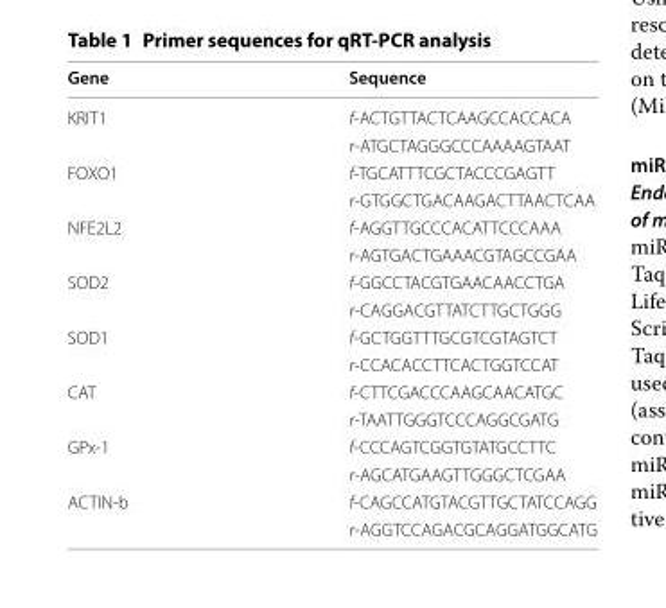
<table><thead><tr><td>Gene</td><td>Sequence</td></tr></thead><tbody><tr><td rowspan="2">KRIT1</td><td>f‑ACT GTT ACT CAA GCC ACC ACA</td></tr><tr><td>r‑ATG CTA GGG CCC AAA AGT AAT</td></tr><tr><td rowspan="2">FOXO1</td><td>f‑TGC ATT TCG CTA CCC GAG TT</td></tr><tr><td>r‑GTG GCT GAC AAG ACT TAA CTCAA</td></tr><tr><td rowspan="2">NFE2L2</td><td>f‑AGG TTG CCC ACA TTC CCA AA</td></tr><tr><td>r‑AGT GAC TGA AAC GTA GCC GAA</td></tr><tr><td rowspan="2">SOD2</td><td>f‑GGC CTA CGT GAA CAA CCT GA</td></tr><tr><td>r‑CAG GAC GTT ATC TTG CTG GG</td></tr><tr><td rowspan="2">SOD1</td><td>f‑GCT GGT TTG CGT CGT AGT CT</td></tr><tr><td>r‑CCA CAC CTT CAC TGG TCC AT</td></tr><tr><td rowspan="2">CAT</td><td>f‑CTT CGA CCC AAG CAA CAT GC</td></tr><tr><td>r‑TAA TTG GGT CCC AGG CGA TG</td></tr><tr><td rowspan="2">GPx‑1</td><td>f‑CCC AGT CGG TGT ATG CCT TC</td></tr><tr><td>r‑AGC ATG AAG TTG GGC TCG AA</td></tr><tr><td rowspan="2">ACTIN‑b</td><td>f‑CAG CCA TGT ACG TTG CTA TCC AGG</td></tr><tr><td>r‑AGG TCC AGA CGC AGG ATG GCATG</td></tr></tbody></table>